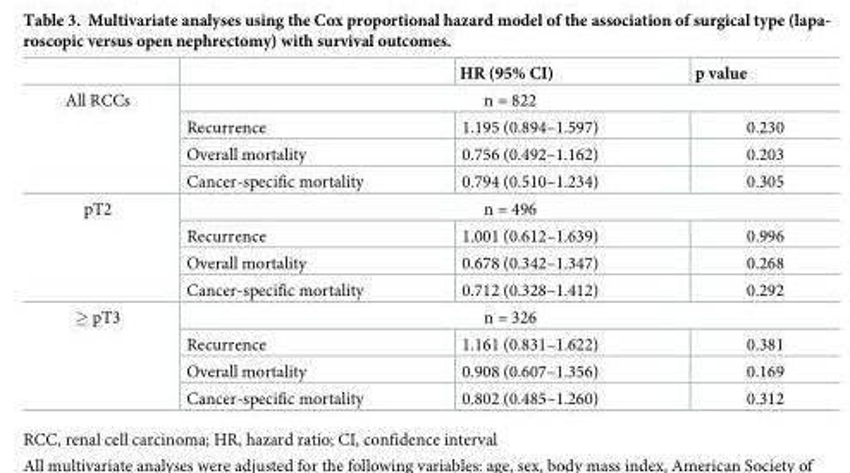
<table><thead><tr><td></td><td></td><td>HR (95% CI)</td><td>p value</td></tr></thead><tbody><tr><td rowspan="4">All RCCs</td><td colspan="3">n = 822</td></tr><tr><td>Recurrence</td><td>1.195 (0.894–1.597)</td><td>0.230</td></tr><tr><td>Overall mortality</td><td>0.756 (0.492–1.162)</td><td>0.203</td></tr><tr><td>Cancer-specific mortality</td><td>0.794 (0.510–1.234)</td><td>0.305</td></tr><tr><td rowspan="4">pT2</td><td colspan="3">n = 496</td></tr><tr><td>Recurrence</td><td>1.001 (0.612–1.639)</td><td>0.996</td></tr><tr><td>Overall mortality</td><td>0.678 (0.342–1.347)</td><td>0.268</td></tr><tr><td>Cancer-specific mortality</td><td>0.712 (0.328–1.412)</td><td>0.292</td></tr><tr><td rowspan="4">≥ pT3</td><td colspan="3">n = 326</td></tr><tr><td>Recurrence</td><td>1.161 (0.831–1.622)</td><td>0.381</td></tr><tr><td>Overall mortality</td><td>0.908 (0.607–1.356)</td><td>0.169</td></tr><tr><td>Cancer-specific mortality</td><td>0.802 (0.485–1.260)</td><td>0.312</td></tr></tbody></table>